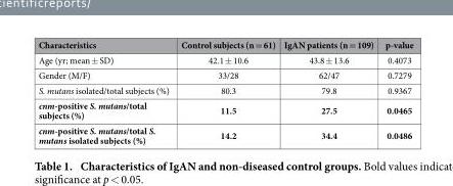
<table><thead><tr><td>Characteristics</td><td>Control subjects (n = 61)</td><td>IgAN patients (n = 109)</td><td>p-value</td></tr></thead><tbody><tr><td>Age (yr; mean ± SD)</td><td>42.1 ± 10.6</td><td>43.8 ± 13.6</td><td>0.4073</td></tr><tr><td>Gender (M/F)</td><td>33/28</td><td>62/47</td><td>0.7279</td></tr><tr><td>S. mutans isolated/total subjects (%)</td><td>80.3</td><td>79.8</td><td>0.9367</td></tr><tr><td>cnm-positive S. mutans/total subjects (%)</td><td>11.5</td><td>27.5</td><td>0.0465</td></tr><tr><td>cnm-positive S. mutans/total S. mutans isolated subjects (%)</td><td>14.2</td><td>34.4</td><td>0.0486</td></tr></tbody></table>